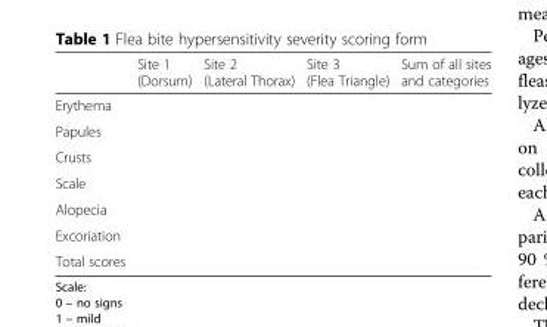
<table><thead><tr><td></td><td>Site 1 (Dorsum)</td><td>Site 2 (Lateral Thorax)</td><td>Site 3 (Flea Triangle)</td><td>Sum of all sites and categories</td></tr></thead><tbody><tr><td colspan="5">Erythema</td></tr><tr><td colspan="5">Papules</td></tr><tr><td colspan="5">Crusts</td></tr><tr><td colspan="5">Scale</td></tr><tr><td colspan="5">Alopecia</td></tr><tr><td colspan="5">Excoriation</td></tr><tr><td>Total scores</td><td></td><td></td><td></td><td></td></tr></tbody></table>